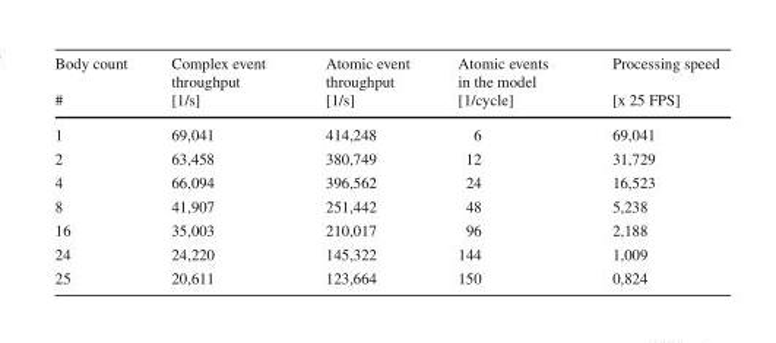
<table><thead><tr><td rowspan="2">Body count #</td><td rowspan="2">Complex event throughput [1/s]</td><td rowspan="2">Atomic event throughput [1/s]</td><td rowspan="2">Atomic events in the model [1/cycle]</td><td rowspan="2">Processing speed [x 25 FPS]</td></tr><tr></tr></thead><tbody><tr><td>1</td><td>69,041</td><td>414,248</td><td>6</td><td>69,041</td></tr><tr><td>2</td><td>63,458</td><td>380,749</td><td>12</td><td>31,729</td></tr><tr><td>4</td><td>66,094</td><td>396,562</td><td>24</td><td>16,523</td></tr><tr><td>8</td><td>41,907</td><td>251,442</td><td>48</td><td>5,238</td></tr><tr><td>16</td><td>35,003</td><td>210,017</td><td>96</td><td>2,188</td></tr><tr><td>24</td><td>24,220</td><td>145,322</td><td>144</td><td>1,009</td></tr><tr><td>25</td><td>20,611</td><td>123,664</td><td>150</td><td>0,824</td></tr></tbody></table>